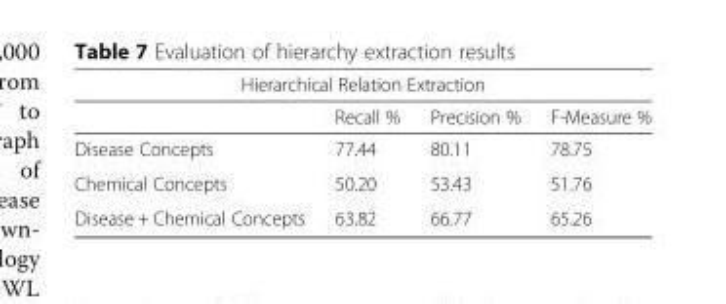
<table><thead><tr><td colspan="4">Hierarchical Relation Extraction</td></tr><tr><td></td><td>Recall %</td><td>Precision %</td><td>F-Measure %</td></tr></thead><tbody><tr><td>Disease Concepts</td><td>77.44</td><td>80.11</td><td>78.75</td></tr><tr><td>Chemical Concepts</td><td>50.20</td><td>53.43</td><td>51.76</td></tr><tr><td>Disease + Chemical Concepts</td><td>63.82</td><td>66.77</td><td>65.26</td></tr></tbody></table>